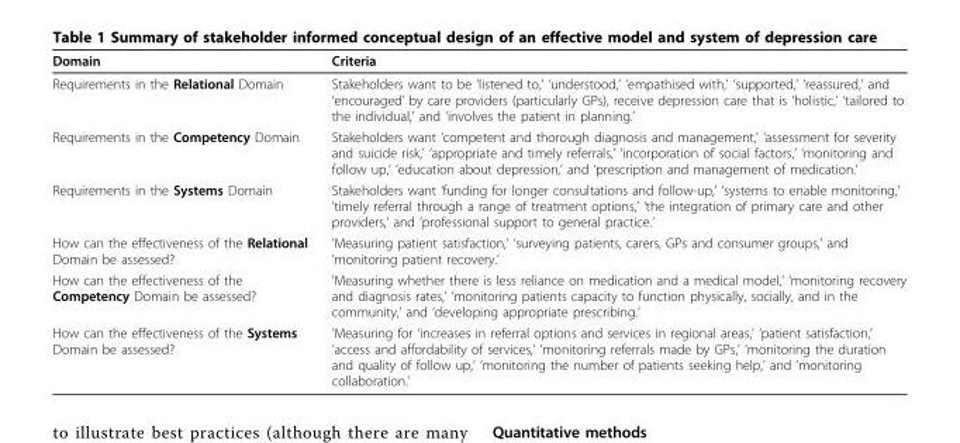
<table><thead><tr><td>Domain</td><td>Criteria</td></tr></thead><tbody><tr><td>Requirements in the Relational Domain</td><td>Stakeholders want to be ‘listened to,’ ‘understood,’ ‘empathised with,’ ‘supported,’ ‘reassured,’ and ‘encouraged’ by care providers (particularly GPs), receive depression care that is ‘holistic,’ ‘tailored to the individual,’ and ‘involves the patient in planning.’</td></tr><tr><td>Requirements in the Competency Domain</td><td>Stakeholders want ‘competent and thorough diagnosis and management,’ ‘assessment for severity and suicide risk,’ ‘appropriate and timely referrals,’ ‘incorporation of social factors,’ ‘monitoring and follow up,’ ‘education about depression,’ and ‘prescription and management of medication.’</td></tr><tr><td>Requirements in the Systems Domain</td><td>Stakeholders want ‘funding for longer consultations and follow-up,’ ‘systems to enable monitoring,’ ‘timely referral through a range of treatment options,’ ‘the integration of primary care and other providers,’ and ‘professional support to general practice.’</td></tr><tr><td>How can the effectiveness of the Relational Domain be assessed?</td><td>’Measuring patient satisfaction,’ ‘surveying patients, carers, GPs and consumer groups,’ and ‘monitoring patient recovery.’</td></tr><tr><td>How can the effectiveness of the Competency Domain be assessed?</td><td>’Measuring whether there is less reliance on medication and a medical model,’ ‘monitoring recovery and diagnosis rates,’ ‘monitoring patients capacity to function physically, socially, and in the community,’ and ‘developing appropriate prescribing.’</td></tr><tr><td>How can the effectiveness of the Systems Domain be assessed?</td><td>’Measuring for ‘increases in referral options and services in regional areas,’ ‘patient satisfaction,’ ‘access and affordability of services,’ ‘monitoring referrals made by GPs,’ ‘monitoring the duration and quality of follow up,’ ‘monitoring the number of patients seeking help,’ and ‘monitoring collaboration.’</td></tr></tbody></table>